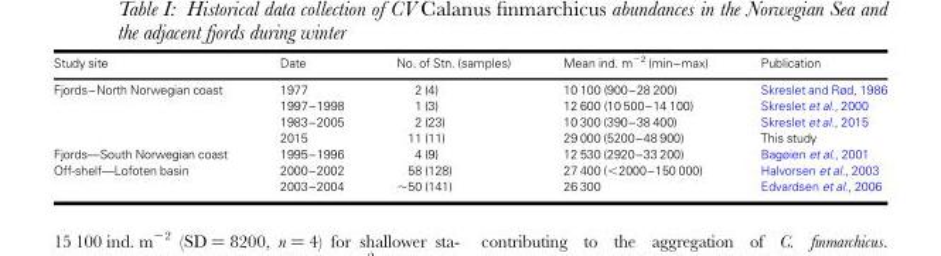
<table><thead><tr><td>Study site</td><td>Date</td><td>No. of Stn. (samples)</td><td>Mean ind. m<sup>−2</sup> (min–max)</td><td>Publication</td></tr></thead><tbody><tr><td rowspan="4">Fjords–North Norwegian coast</td><td>1977</td><td>2 (4)</td><td>10 100 (900–28 200)</td><td>Skreslet and Rød, 1986</td></tr><tr><td>1997–1998</td><td>1 (3)</td><td>12 600 (10 500–14 100)</td><td>Skreslet et al., 2000</td></tr><tr><td>1983–2005</td><td>2 (23)</td><td>10 300 (390–38 400)</td><td>Skreslet et al., 2015</td></tr><tr><td>2015</td><td>11 (11)</td><td>29 000 (5200–48 900)</td><td>This study</td></tr><tr><td>Fjords—South Norwegian coast</td><td>1995–1996</td><td>4 (9)</td><td>12 530 (2920–33 200)</td><td>Bagøien et al., 2001</td></tr><tr><td rowspan="2">Off-shelf—Lofoten basin</td><td>2000–2002</td><td>58 (128)</td><td>27 400 (&lt;2000–150 000)</td><td>Halvorsen et al., 2003</td></tr><tr><td>2003–2004</td><td>≏50 (141)</td><td>26 300</td><td>Edvardsen et al., 2006</td></tr></tbody></table>